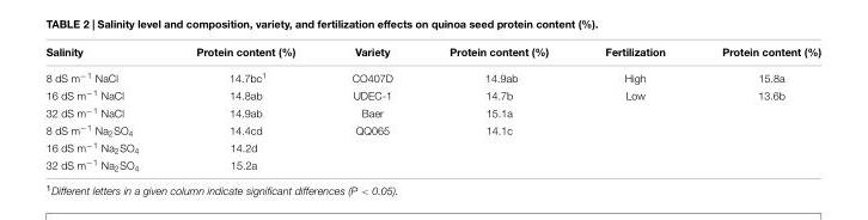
<table><thead><tr><td>Salinity</td><td>Protein content (%)</td><td>Variety</td><td>Protein content (%)</td><td>Fertilization</td><td>Protein content (%)</td></tr></thead><tbody><tr><td>8 dS m<sup>−1</sup> NaCl</td><td>14.7bc<sup>1</sup></td><td>CO407D</td><td>14.9ab</td><td>High</td><td>15.8a</td></tr><tr><td>16 dS m<sup>−1</sup> NaCl</td><td>14.8ab</td><td>UDEC-1</td><td>14.7b</td><td>Low</td><td>13.6b</td></tr><tr><td>32 dS m<sup>−1</sup> NaCl</td><td>14.9ab</td><td>Baer</td><td>15.1a</td><td></td><td></td></tr><tr><td>8 dS m<sup>−1</sup> Na<sub>2</sub>SO<sub>4</sub></td><td>14.4cd</td><td>QQ065</td><td>14.1c</td><td></td><td></td></tr><tr><td>16 dS m<sup>−1</sup> Na<sub>2</sub>SO<sub>4</sub></td><td>14.2d</td><td></td><td></td><td></td><td></td></tr><tr><td>32 dS m<sup>−1</sup> Na<sub>2</sub>SO<sub>4</sub></td><td>15.2a</td><td></td><td></td><td></td><td></td></tr></tbody></table>